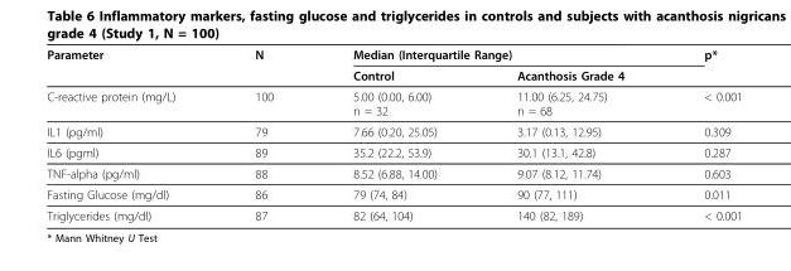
<table><thead><tr><td rowspan="2">Parameter</td><td rowspan="2">N</td><td colspan="2">Median (Interquartile Range)</td><td rowspan="2">p*</td></tr><tr><td>Control</td><td>Acanthosis Grade 4</td></tr></thead><tbody><tr><td>C-reactive protein (mg/L)</td><td>100</td><td>5.00 (0.00, 6.00) n = 32</td><td>11.00 (6.25, 24.75) n = 68</td><td>&lt; 0.001</td></tr><tr><td>IL1 (pg/ml)</td><td>79</td><td>7.66 (0.20, 25.05)</td><td>3.17 (0.13, 12.95)</td><td>0.309</td></tr><tr><td>IL6 (pgml)</td><td>89</td><td>35.2 (22.2, 53.9)</td><td>30.1 (13.1, 42.8)</td><td>0.287</td></tr><tr><td>TNF-alpha (pg/ml)</td><td>88</td><td>8.52 (6.88, 14.00)</td><td>9.07 (8.12, 11.74)</td><td>0.603</td></tr><tr><td>Fasting Glucose (mg/dl)</td><td>86</td><td>79 (74, 84)</td><td>90 (77, 111)</td><td>0.011</td></tr><tr><td>Triglycerides (mg/dl)</td><td>87</td><td>82 (64, 104)</td><td>140 (82, 189)</td><td>&lt; 0.001</td></tr></tbody></table>